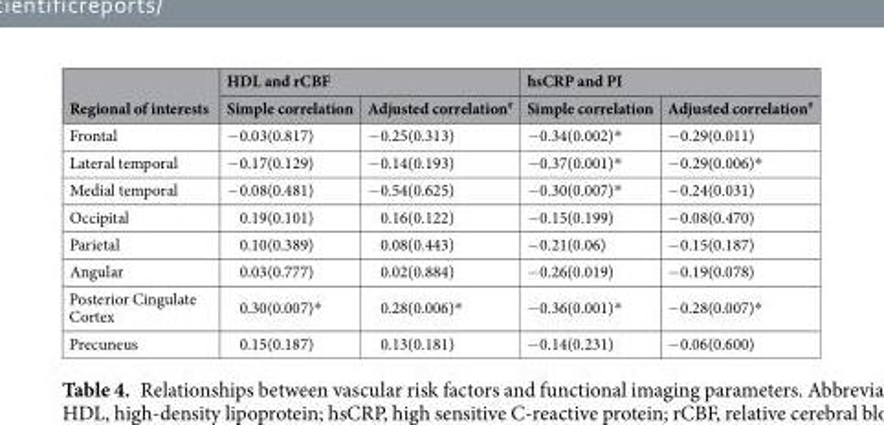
<table><thead><tr><td rowspan="2">Regional of interests</td><td colspan="2">HDL and rCBF</td><td colspan="2">hsCRP and PI</td></tr><tr><td>Simple correlation</td><td>Adjusted correlation<sup>#</sup></td><td>Simple correlation</td><td>Adjusted correlation<sup>#</sup></td></tr></thead><tbody><tr><td>Frontal</td><td>−0.03(0.817)</td><td>−0.25(0.313)</td><td>−0.34(0.002)*</td><td>−0.29(0.011)</td></tr><tr><td>Lateral temporal</td><td>−0.17(0.129)</td><td>−0.14(0.193)</td><td>−0.37(0.001)*</td><td>−0.29(0.006)*</td></tr><tr><td>Medial temporal</td><td>−0.08(0.481)</td><td>−0.54(0.625)</td><td>−0.30(0.007)*</td><td>−0.24(0.031)</td></tr><tr><td>Occipital</td><td>0.19(0.101)</td><td>0.16(0.122)</td><td>−0.15(0.199)</td><td>−0.08(0.470)</td></tr><tr><td>Parietal</td><td>0.10(0.389)</td><td>0.08(0.443)</td><td>−0.21(0.06)</td><td>−0.15(0.187)</td></tr><tr><td>Angular</td><td>0.03(0.777)</td><td>0.02(0.884)</td><td>−0.26(0.019)</td><td>−0.19(0.078)</td></tr><tr><td>Posterior Cingulate Cortex</td><td>0.30(0.007)*</td><td>0.28(0.006)*</td><td>−0.36(0.001)*</td><td>−0.28(0.007)*</td></tr><tr><td>Precuneus</td><td>0.15(0.187)</td><td>0.13(0.181)</td><td>−0.14(0.231)</td><td>−0.06(0.600)</td></tr></tbody></table>